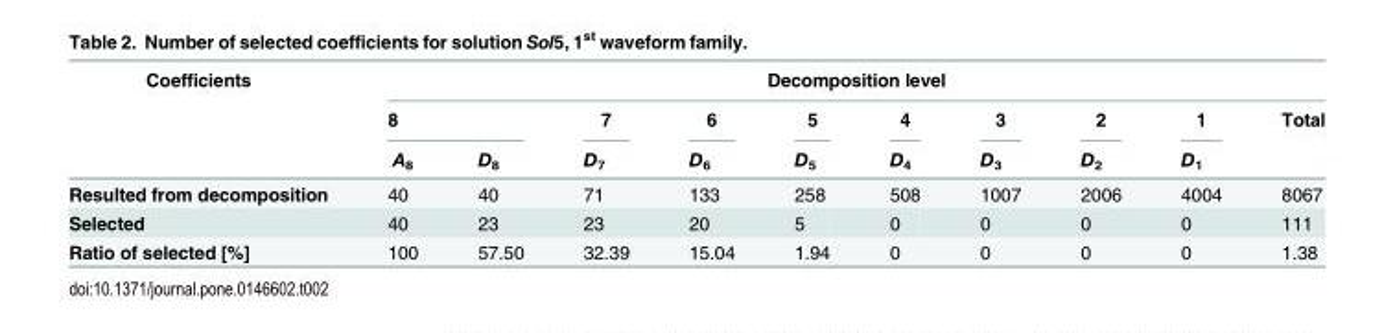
<table><thead><tr><td rowspan="3">Coefficients</td><td colspan="10">Decomposition level</td></tr><tr><td colspan="2">8</td><td rowspan="2">7 D<sub>7</sub></td><td rowspan="2">6 D<sub>6</sub></td><td rowspan="2">5 D5</td><td rowspan="2">4 D<sub>4</sub></td><td rowspan="2">3 D<sub>3</sub></td><td rowspan="2">2 D<sub>2</sub></td><td rowspan="2">1 D<sub>1</sub></td><td rowspan="2">Total</td></tr><tr><td>A<sub>8</sub></td><td>D<sub>8</sub></td></tr></thead><tbody><tr><td>Resulted from decomposition</td><td>40</td><td>40</td><td>71</td><td>133</td><td>258</td><td>508</td><td>1007</td><td>2006</td><td>4004</td><td>8067</td></tr><tr><td>Selected</td><td>40</td><td>23</td><td>23</td><td>20</td><td>5</td><td>0</td><td>0</td><td>0</td><td>0</td><td>111</td></tr><tr><td>Ratio of selected [%]</td><td>100</td><td>57.50</td><td>32.39</td><td>15.04</td><td>1.94</td><td>0</td><td>0</td><td>0</td><td>0</td><td>1.38</td></tr></tbody></table>